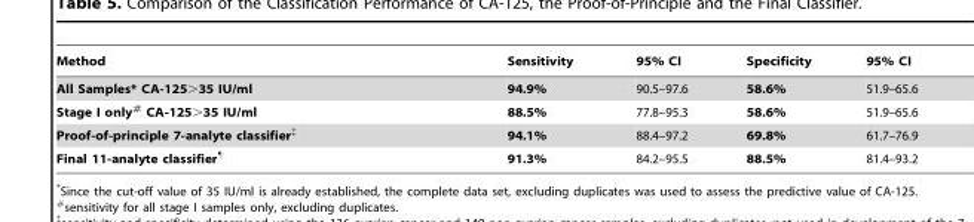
<table><thead><tr><td>Method</td><td>Sensitivity</td><td>95% CI</td><td>Specificity</td><td>95% CI</td></tr></thead><tbody><tr><td>All Samples* CA-125&gt;35 IU/ml</td><td>94.9%</td><td>90.5–97.6</td><td>58.6%</td><td>51.9–65.6</td></tr><tr><td>Stage I only# CA-125&gt;35 IU/ml</td><td>88.5%</td><td>77.8–95.3</td><td>58.6%</td><td>51.9–65.6</td></tr><tr><td>Proof-of-principle 7-analyte classifier‡</td><td>94.1%</td><td>88.4–97.2</td><td>69.8%</td><td>61.7–76.9</td></tr><tr><td>Final 11-analyte classifier¶</td><td>91.3%</td><td>84.2–95.5</td><td>88.5%</td><td>81.4–93.2</td></tr></tbody></table>